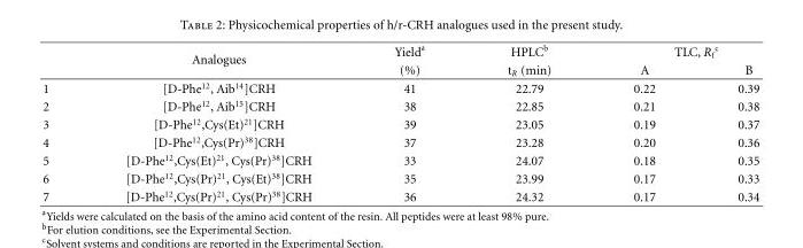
<table><thead><tr><td rowspan="2"></td><td rowspan="2">Analogues</td><td rowspan="2">Yield<sup>a</sup> (%)</td><td rowspan="2">HPLC<sup>b</sup> t<sub>R</sub> (min)</td><td colspan="2">TLC, R<sub>f</sub> <sup>c</sup></td></tr><tr><td>A</td><td>B</td></tr></thead><tbody><tr><td>1</td><td>[D-Phe<sup>12</sup>, Aib<sup>14</sup>]CRH</td><td>41</td><td>22.79</td><td>0.22</td><td>0.39</td></tr><tr><td>2</td><td>[D-Phe<sup>12</sup>, Aib<sup>15</sup>]CRH</td><td>38</td><td>22.85</td><td>0.21</td><td>0.38</td></tr><tr><td>3</td><td>[D-Phe<sup>12</sup>,Cys(Et)<sup>21</sup>]CRH</td><td>39</td><td>23.05</td><td>0.19</td><td>0.37</td></tr><tr><td>4</td><td>[D-Phe<sup>12</sup>,Cys(Pr)<sup>38</sup>]CRH</td><td>37</td><td>23.28</td><td>0.20</td><td>0.36</td></tr><tr><td>5</td><td>[D-Phe<sup>12</sup>,Cys(Et)<sup>21</sup>, Cys(Pr)<sup>38</sup>]CRH</td><td>33</td><td>24.07</td><td>0.18</td><td>0.35</td></tr><tr><td>6</td><td>[D-Phe<sup>12</sup>,Cys(Pr)<sup>21</sup>, Cys(Et)<sup>38</sup>]CRH</td><td>35</td><td>23.99</td><td>0.17</td><td>0.33</td></tr><tr><td>7</td><td>[D-Phe<sup>12</sup>,Cys(Pr)<sup>21</sup>, Cys(Pr)<sup>38</sup>]CRH</td><td>36</td><td>24.32</td><td>0.17</td><td>0.34</td></tr></tbody></table>